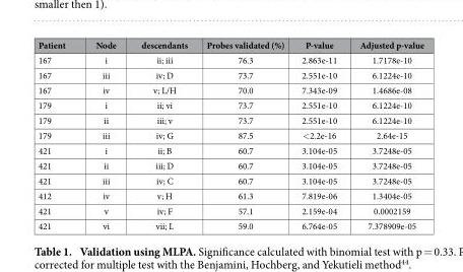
<table><thead><tr><td>Patient</td><td>Node</td><td>descendants</td><td>Probes validated (%)</td><td>P-value</td><td>Adjusted p-value</td></tr></thead><tbody><tr><td>167</td><td>i</td><td>ii; iii</td><td>76.3</td><td>2.863e-11</td><td>1.7178e-10</td></tr><tr><td>167</td><td>iii</td><td>iv; D</td><td>73.7</td><td>2.551e-10</td><td>6.1224e-10</td></tr><tr><td>167</td><td>iv</td><td>v; L/H</td><td>70.0</td><td>7.343e-09</td><td>1.4686e-08</td></tr><tr><td>179</td><td>i</td><td>ii; vi</td><td>73.7</td><td>2.551e-10</td><td>6.1224e-10</td></tr><tr><td>179</td><td>ii</td><td>iii; v</td><td>73.7</td><td>2.551e-10</td><td>6.1224e-10</td></tr><tr><td>179</td><td>iii</td><td>iv; G</td><td>87.5</td><td>&lt;2.2e-16</td><td>2.64e-15</td></tr><tr><td>421</td><td>i</td><td>ii; B</td><td>60.7</td><td>3.104e-05</td><td>3.7248e-05</td></tr><tr><td>421</td><td>ii</td><td>iii; D</td><td>60.7</td><td>3.104e-05</td><td>3.7248e-05</td></tr><tr><td>421</td><td>iii</td><td>iv; C</td><td>60.7</td><td>3.104e-05</td><td>3.7248e-05</td></tr><tr><td>412</td><td>iv</td><td>v; H</td><td>61.3</td><td>7.819e-06</td><td>1.3404e-05</td></tr><tr><td>421</td><td>v</td><td>iv; F</td><td>57.1</td><td>2.159e-04</td><td>0.0002159</td></tr><tr><td>421</td><td>vi</td><td>vii; L</td><td>59.0</td><td>6.764e-05</td><td>7.378909e-05</td></tr></tbody></table>